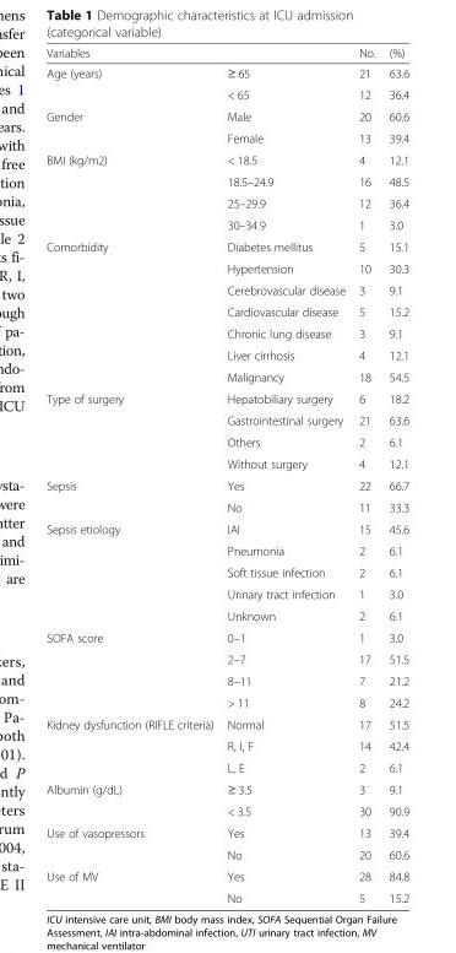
<table><thead><tr><td>Variables</td><td></td><td>No.</td><td>(%)</td></tr></thead><tbody><tr><td rowspan="2">Age (years)</td><td>≥ 65</td><td>21</td><td>63.6</td></tr><tr><td>&lt; 65</td><td>12</td><td>36.4</td></tr><tr><td rowspan="2">Gender</td><td>Male</td><td>20</td><td>60.6</td></tr><tr><td>Female</td><td>13</td><td>39.4</td></tr><tr><td rowspan="4">BMI (kg/m2)</td><td>&lt; 18.5</td><td>4</td><td>12.1</td></tr><tr><td>18.5–24.9</td><td>16</td><td>48.5</td></tr><tr><td>25–29.9</td><td>12</td><td>36.4</td></tr><tr><td>30–34.9</td><td>1</td><td>3.0</td></tr><tr><td rowspan="7">Comorbidity</td><td>Diabetes mellitus</td><td>5</td><td>15.1</td></tr><tr><td>Hypertension</td><td>10</td><td>30.3</td></tr><tr><td>Cerebrovascular disease</td><td>3</td><td>9.1</td></tr><tr><td>Cardiovascular disease</td><td>5</td><td>15.2</td></tr><tr><td>Chronic lung disease</td><td>3</td><td>9.1</td></tr><tr><td>Liver cirrhosis</td><td>4</td><td>12.1</td></tr><tr><td>Malignancy</td><td>18</td><td>54.5</td></tr><tr><td rowspan="4">Type of surgery</td><td>Hepatobiliary surgery</td><td>6</td><td>18.2</td></tr><tr><td>Gastrointestinal surgery</td><td>21</td><td>63.6</td></tr><tr><td>Others</td><td>2</td><td>6.1</td></tr><tr><td>Without surgery</td><td>4</td><td>12.1</td></tr><tr><td rowspan="2">Sepsis</td><td>Yes</td><td>22</td><td>66.7</td></tr><tr><td>No</td><td>11</td><td>33.3</td></tr><tr><td rowspan="5">Sepsis etiology</td><td>IAI</td><td>15</td><td>45.6</td></tr><tr><td>Pneumonia</td><td>2</td><td>6.1</td></tr><tr><td>Soft tissue infection</td><td>2</td><td>6.1</td></tr><tr><td>Urinary tract infection</td><td>1</td><td>3.0</td></tr><tr><td>Unknown</td><td>2</td><td>6.1</td></tr><tr><td rowspan="4">SOFA score</td><td>0–1</td><td>1</td><td>3.0</td></tr><tr><td>2–7</td><td>17</td><td>51.5</td></tr><tr><td>8–11</td><td>7</td><td>21.2</td></tr><tr><td>&gt; 11</td><td>8</td><td>24.2</td></tr><tr><td rowspan="3">Kidney dysfunction (RIFLE criteria)</td><td>Normal</td><td>17</td><td>51.5</td></tr><tr><td>R, I, F</td><td>14</td><td>42.4</td></tr><tr><td>L, E</td><td>2</td><td>6.1</td></tr><tr><td rowspan="2">Albumin (g/dL)</td><td>≥ 3.5</td><td>3</td><td>9.1</td></tr><tr><td>&lt; 3.5</td><td>30</td><td>90.9</td></tr><tr><td rowspan="2">Use of vasopressors</td><td>Yes</td><td>13</td><td>39.4</td></tr><tr><td>No</td><td>20</td><td>60.6</td></tr><tr><td rowspan="2">Use of MV</td><td>Yes</td><td>28</td><td>84.8</td></tr><tr><td>No</td><td>5</td><td>15.2</td></tr></tbody></table>